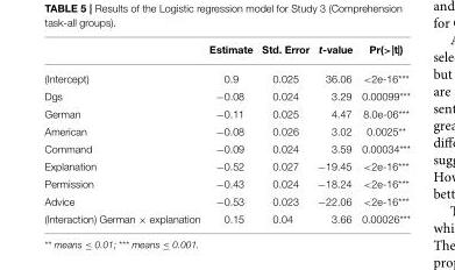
<table><thead><tr><td></td><td>Estimate</td><td>Std. Error</td><td>t-value</td><td>Pr(&gt;|t|)</td></tr></thead><tbody><tr><td>(Intercept)</td><td>0.9</td><td>0.025</td><td>36.06</td><td>&lt;2e-16***</td></tr><tr><td>Dgs</td><td>−0.08</td><td>0.024</td><td>3.29</td><td>0.00099***</td></tr><tr><td>German</td><td>−0.11</td><td>0.025</td><td>4.47</td><td>8.0e-06***</td></tr><tr><td>American</td><td>−0.08</td><td>0.026</td><td>3.02</td><td>0.0025**</td></tr><tr><td>Command</td><td>−0.09</td><td>0.024</td><td>3.59</td><td>0.00034***</td></tr><tr><td>Explanation</td><td>−0.52</td><td>0.027</td><td>−19.45</td><td>&lt;2e-16***</td></tr><tr><td>Permission</td><td>−0.43</td><td>0.024</td><td>−18.24</td><td>&lt;2e-16***</td></tr><tr><td>Advice</td><td>−0.53</td><td>0.023</td><td>−22.06</td><td>&lt;2e-16***</td></tr><tr><td>(Interaction) German × explanation</td><td>0.15</td><td>0.04</td><td>3.66</td><td>0.00026***</td></tr></tbody></table>